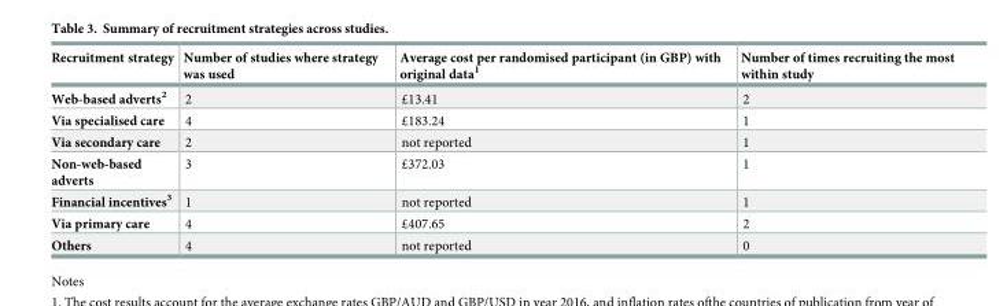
<table><thead><tr><td>Recruitment strategy</td><td>Number of studies where strategy was used</td><td>Average cost per randomised participant (in GBP) with original data<sup>1</sup></td><td>Number of times recruiting the most within study</td></tr></thead><tbody><tr><td>Web-based adverts<sup>2</sup></td><td>2</td><td>£13.41</td><td>2</td></tr><tr><td>Via specialised care</td><td>4</td><td>£183.24</td><td>1</td></tr><tr><td>Via secondary care</td><td>2</td><td>not reported</td><td>1</td></tr><tr><td>Non-web-based adverts</td><td>3</td><td>£372.03</td><td>1</td></tr><tr><td>Financial incentives<sup>3</sup></td><td>1</td><td>not reported</td><td>1</td></tr><tr><td>Via primary care</td><td>4</td><td>£407.65</td><td>2</td></tr><tr><td>Others</td><td>4</td><td>not reported</td><td>0</td></tr></tbody></table>